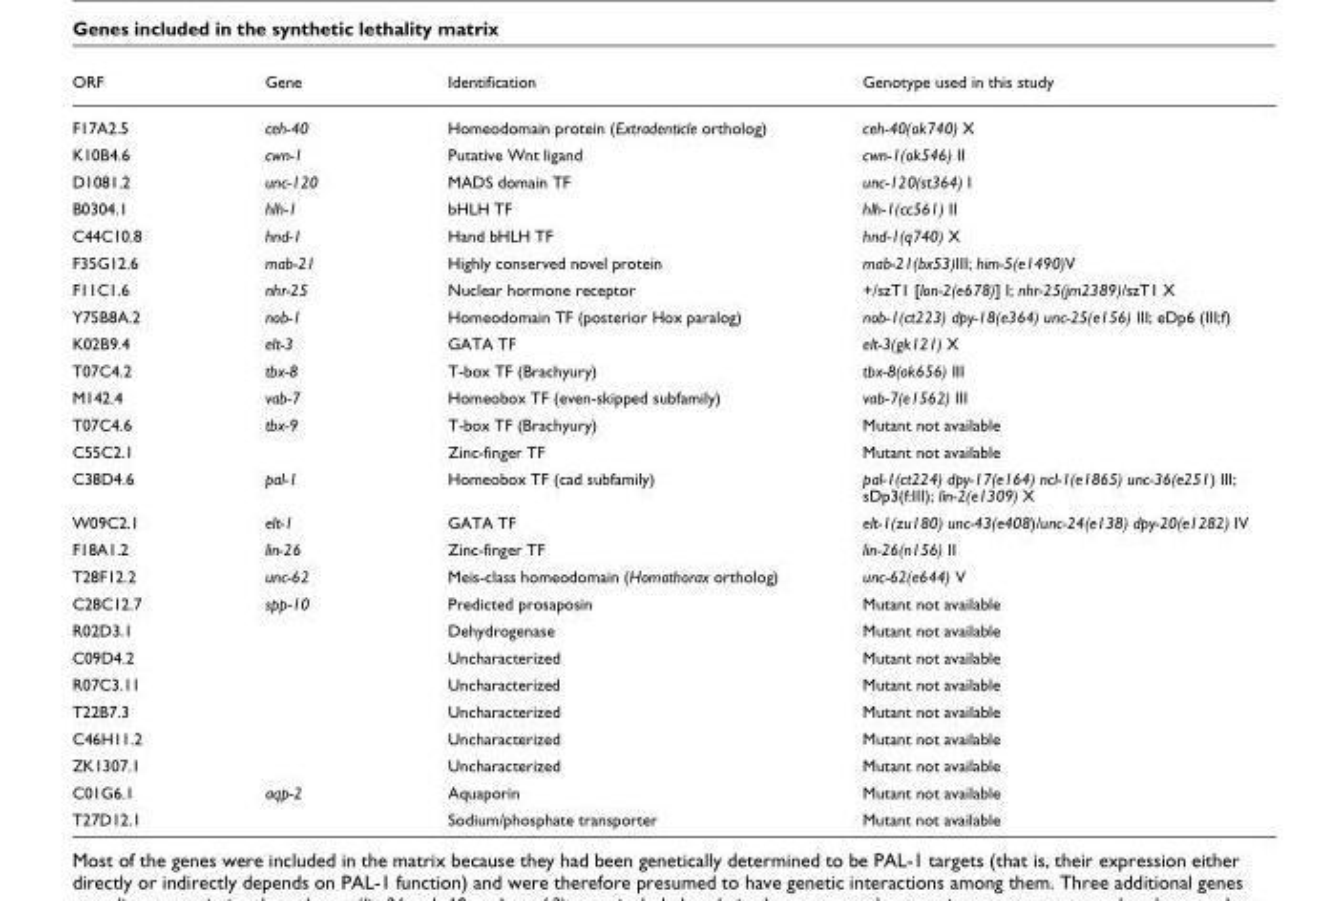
<table><thead><tr><td>ORF</td><td>Gene</td><td>Identification</td><td>Genotype used in this study</td></tr></thead><tbody><tr><td>F17A2.5</td><td>ceh-40</td><td>Homeodomain protein (Extradenticle ortholog)</td><td>ceh-40(ok740) X</td></tr><tr><td>K10B4.6</td><td>cwn-1</td><td>Putative Wnt ligand</td><td>cwn-1(ok546) II</td></tr><tr><td>D1081.2</td><td>unc-120</td><td>MADS domain TF</td><td>unc-120(st364) I</td></tr><tr><td>B0304.1</td><td>hlh-1</td><td>bHLH TF</td><td>hlh-1(cc561) II</td></tr><tr><td>C44C10.8</td><td>hnd-1</td><td>Hand bHLH TF</td><td>hnd-1(q740) X</td></tr><tr><td>F35G12.6</td><td>mab-21</td><td>Highly conserved novel protein</td><td>mab-21(bx53)III; him-5(e1490)V</td></tr><tr><td>F11C1.6</td><td>nhr-25</td><td>Nuclear hormone receptor</td><td>+/szT1 [lon-2(e678)] I; nhr-25(jm2389)/szT1 X</td></tr><tr><td>Y75B8A.2</td><td>nob-1</td><td>Homeodomain TF (posterior Hox paralog)</td><td>nob-1(ct223) dpy-18(e364) unc-25(e156) III; eDp6 (III;f)</td></tr><tr><td>K02B9.4</td><td>elt-3</td><td>GATA TF</td><td>elt-3(gk121) X</td></tr><tr><td>T07C4.2</td><td>tbx-8</td><td>T-box TF (Brachyury)</td><td>tbx-8(ok656) III</td></tr><tr><td>M142.4</td><td>vab-7</td><td>Homeobox TF (even-skipped subfamily)</td><td>vab-7(e1562) III</td></tr><tr><td>T07C4.6</td><td>tbx-9</td><td>T-box TF (Brachyury)</td><td>Mutant not available</td></tr><tr><td>C55C2.1</td><td></td><td>Zinc-finger TF</td><td>Mutant not available</td></tr><tr><td>C38D4.6</td><td>pal-1</td><td>Homeobox TF (cad subfamily)</td><td>pal-1(ct224) dpy-17(e164) ncl-1(e1865) unc-36(e251) III; sDp3(f:III); lin-2(e1309) X</td></tr><tr><td>W09C2.1</td><td>elt-1</td><td>GATA TF</td><td>elt-1(zu180) unc-43(e408)/unc-24(e138) dpy-20(e1282) IV</td></tr><tr><td>F18A1.2</td><td>lin-26</td><td>Zinc-finger TF</td><td>lin-26(n156) II</td></tr><tr><td>T28F12.2</td><td>unc-62</td><td>Meis-class homeodomain (Homothorax ortholog)</td><td>unc-62(e644) V</td></tr><tr><td>C28C12.7</td><td>spp-10</td><td>Predicted prosaposin</td><td>Mutant not available</td></tr><tr><td>R02D3.1</td><td></td><td>Dehydrogenase</td><td>Mutant not available</td></tr><tr><td>C09D4.2</td><td></td><td>Uncharacterized</td><td>Mutant not available</td></tr><tr><td>R07C3.11</td><td></td><td>Uncharacterized</td><td>Mutant not available</td></tr><tr><td>T22B7.3</td><td></td><td>Uncharacterized</td><td>Mutant not available</td></tr><tr><td>C46H11.2</td><td></td><td>Uncharacterized</td><td>Mutant not available</td></tr><tr><td>ZK1307.1</td><td></td><td>Uncharacterized</td><td>Mutant not available</td></tr><tr><td>C01G6.1</td><td>aqp-2</td><td>Aquaporin</td><td>Mutant not available</td></tr><tr><td>T27D12.1</td><td></td><td>Sodium/phosphate transporter</td><td>Mutant not available</td></tr></tbody></table>